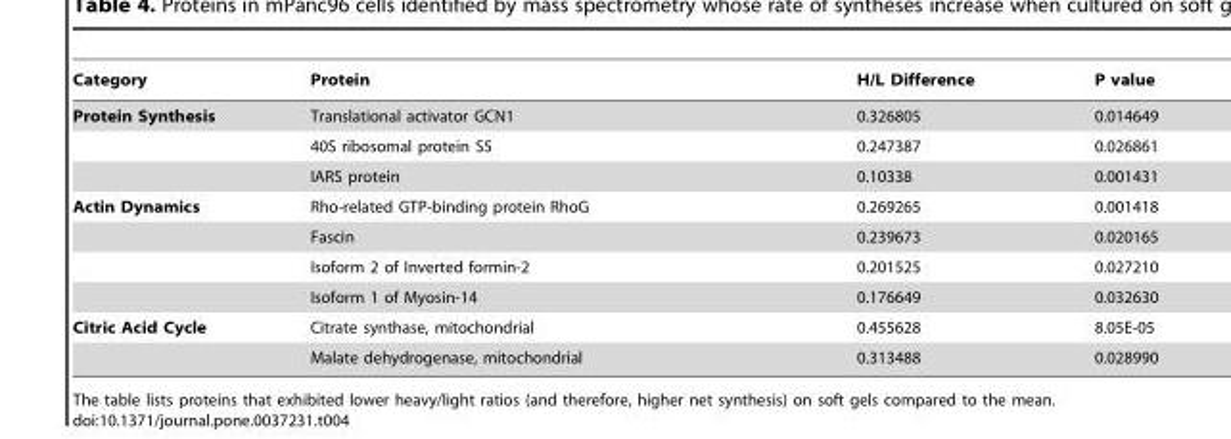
<table><thead><tr><td>Category</td><td>Protein</td><td>H/L Difference</td><td>P value</td></tr></thead><tbody><tr><td rowspan="3">Protein Synthesis</td><td>Translational activator GCN1</td><td>0.326805</td><td>0.014649</td></tr><tr><td>40S ribosomal protein S5</td><td>0.247387</td><td>0.026861</td></tr><tr><td>IARS protein</td><td>0.10338</td><td>0.001431</td></tr><tr><td rowspan="4">Actin Dynamics</td><td>Rho-related GTP-binding protein RhoG</td><td>0.269265</td><td>0.001418</td></tr><tr><td>Fascin</td><td>0.239673</td><td>0.020165</td></tr><tr><td>Isoform 2 of Inverted formin-2</td><td>0.201525</td><td>0.027210</td></tr><tr><td>Isoform 1 of Myosin-14</td><td>0.176649</td><td>0.032630</td></tr><tr><td rowspan="2">Citric Acid Cycle</td><td>Citrate synthase, mitochondrial</td><td>0.455628</td><td>8.05E-05</td></tr><tr><td>Malate dehydrogenase, mitochondrial</td><td>0.313488</td><td>0.028990</td></tr></tbody></table>